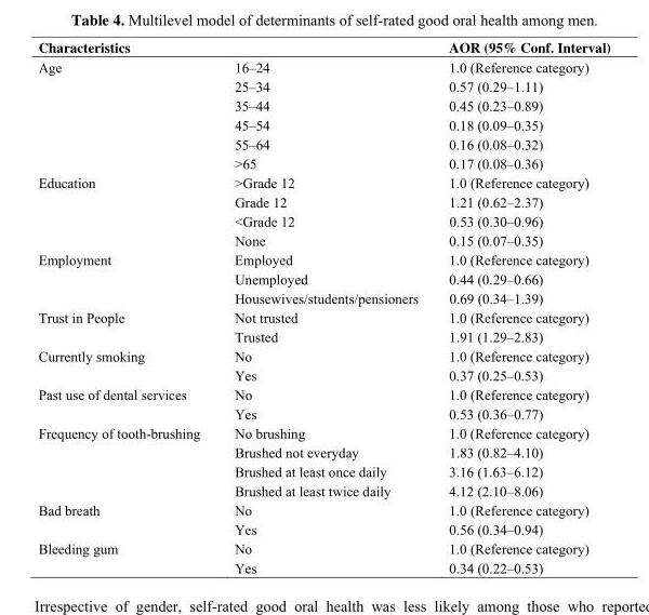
<table><thead><tr><td>Characteristics</td><td></td><td>AOR (95% Conf. Interval)</td></tr></thead><tbody><tr><td rowspan="6">Age</td><td>16–24</td><td>1.0 (Reference category)</td></tr><tr><td>25–34</td><td>0.57 (0.29–1.11)</td></tr><tr><td>35–44</td><td>0.45 (0.23–0.89)</td></tr><tr><td>45–54</td><td>0.18 (0.09–0.35)</td></tr><tr><td>55–64</td><td>0.16 (0.08–0.32)</td></tr><tr><td>&gt;65</td><td>0.17 (0.08–0.36)</td></tr><tr><td rowspan="4">Education</td><td>&gt;Grade 12</td><td>1.0 (Reference category)</td></tr><tr><td>Grade 12</td><td>1.21 (0.62–2.37)</td></tr><tr><td>&lt;Grade 12</td><td>0.53 (0.30–0.96)</td></tr><tr><td>None</td><td>0.15 (0.07–0.35)</td></tr><tr><td rowspan="3">Employment</td><td>Employed</td><td>1.0 (Reference category)</td></tr><tr><td>Unemployed</td><td>0.44 (0.29–0.66)</td></tr><tr><td>Housewives/students/pensioners</td><td>0.69 (0.34–1.39)</td></tr><tr><td rowspan="2">Trust in People</td><td>Not trusted</td><td>1.0 (Reference category)</td></tr><tr><td>Trusted</td><td>1.91 (1.29–2.83)</td></tr><tr><td rowspan="2">Currently smoking</td><td>No</td><td>1.0 (Reference category)</td></tr><tr><td>Yes</td><td>0.37 (0.25–0.53)</td></tr><tr><td rowspan="2">Past use of dental services</td><td>No</td><td>1.0 (Reference category)</td></tr><tr><td>Yes</td><td>0.53 (0.36–0.77)</td></tr><tr><td rowspan="4">Frequency of tooth-brushing</td><td>No brushing</td><td>1.0 (Reference category)</td></tr><tr><td>Brushed not everyday</td><td>1.83 (0.82–4.10)</td></tr><tr><td>Brushed at least once daily</td><td>3.16 (1.63–6.12)</td></tr><tr><td>Brushed at least twice daily</td><td>4.12 (2.10–8.06)</td></tr><tr><td rowspan="2">Bad breath</td><td>No</td><td>1.0 (Reference category)</td></tr><tr><td>Yes</td><td>0.56 (0.34–0.94)</td></tr><tr><td rowspan="2">Bleeding gum</td><td>No</td><td>1.0 (Reference category)</td></tr><tr><td>Yes</td><td>0.34 (0.22–0.53)</td></tr></tbody></table>